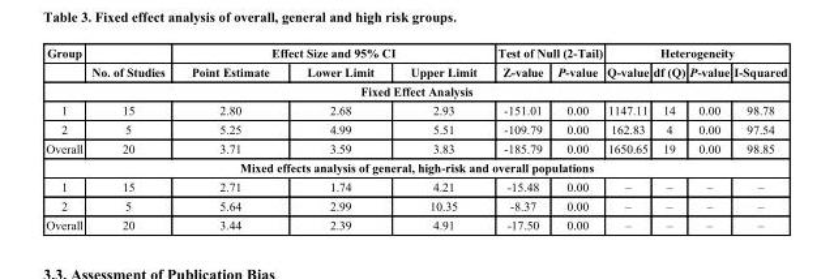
<table><thead><tr><td rowspan="2">Group</td><td rowspan="2">No. of Studies</td><td colspan="3">Effect Size and 95% CI</td><td colspan="2">Test of Null (2-Tail)</td><td colspan="4">Heterogeneity</td></tr><tr><td>Point Estimate</td><td>Lower Limit</td><td>Upper Limit</td><td>Z-value</td><td>P-value</td><td>Q-value</td><td>df (Q)</td><td>P-value</td><td>I-Squared</td></tr></thead><tbody><tr><td colspan="11">Fixed Effect Analysis</td></tr><tr><td>1</td><td>15</td><td>2.80</td><td>2.68</td><td>2.93</td><td>-151.01</td><td>0.00</td><td>1147.11</td><td>14</td><td>0.00</td><td>98.78</td></tr><tr><td>2</td><td>5</td><td>5.25</td><td>4.99</td><td>5.51</td><td>-109.79</td><td>0.00</td><td>162.83</td><td>4</td><td>0.00</td><td>97.54</td></tr><tr><td>Overall</td><td>20</td><td>3.71</td><td>3.59</td><td>3.83</td><td>-185.79</td><td>0.00</td><td>1650.65</td><td>19</td><td>0.00</td><td>98.85</td></tr><tr><td colspan="11">Mixed effects analysis of general, high-risk and overall populations</td></tr><tr><td>1</td><td>15</td><td>2.71</td><td>1.74</td><td>4.21</td><td>-15.48</td><td>0.00</td><td>–</td><td>–</td><td>–</td><td>–</td></tr><tr><td>2</td><td>5</td><td>5.64</td><td>2.99</td><td>10.35</td><td>-8.37</td><td>0.00</td><td>–</td><td>–</td><td>–</td><td>–</td></tr><tr><td>Overall</td><td>20</td><td>3.44</td><td>2.39</td><td>4.91</td><td>-17.50</td><td>0.00</td><td>–</td><td>–</td><td>–</td><td>–</td></tr></tbody></table>